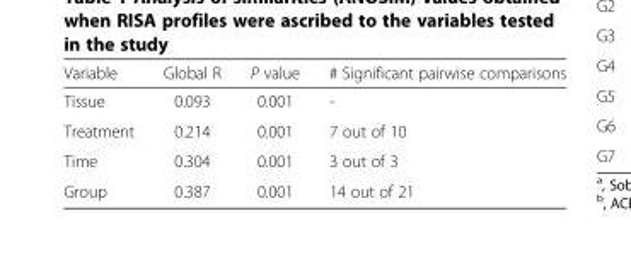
<table><thead><tr><td>Variable</td><td>Global R</td><td>P value</td><td># Significant pairwise comparisons</td></tr></thead><tbody><tr><td>Tissue</td><td>0.093</td><td>0.001</td><td>-</td></tr><tr><td>Treatment</td><td>0.214</td><td>0.001</td><td>7 out of 10</td></tr><tr><td>Time</td><td>0.304</td><td>0.001</td><td>3 out of 3</td></tr><tr><td>Group</td><td>0.387</td><td>0.001</td><td>14 out of 21</td></tr></tbody></table>